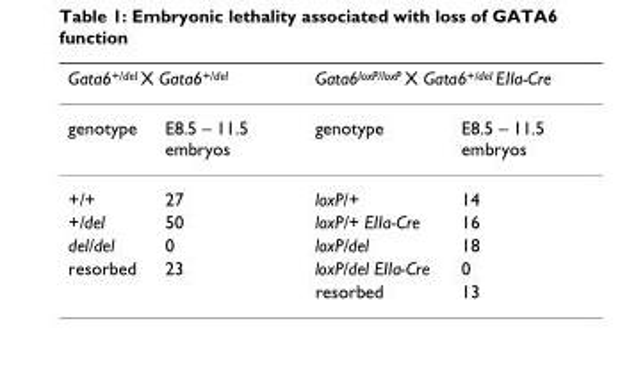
<table><thead><tr><td colspan="2">Gata6<sup>+/del</sup> X Gata6<sup>+/del</sup></td><td colspan="2">Gata6<sup>loxP/loxP</sup> X Gata6<sup>+/del</sup> EIIa-Cre</td></tr><tr><td>genotype</td><td>E8.5 – 11.5 embryos</td><td>genotype</td><td>E8.5 – 11.5 embryos</td></tr></thead><tbody><tr><td>+/+</td><td>27</td><td>loxP/+</td><td>14</td></tr><tr><td>+/del</td><td>50</td><td>loxP/+ EIIa-Cre</td><td>16</td></tr><tr><td>del/del</td><td>0</td><td>loxP/del</td><td>18</td></tr><tr><td rowspan="2">resorbed</td><td>23</td><td>loxP/del EIIa-Cre</td><td>0</td></tr><tr><td></td><td>resorbed</td><td>13</td></tr></tbody></table>